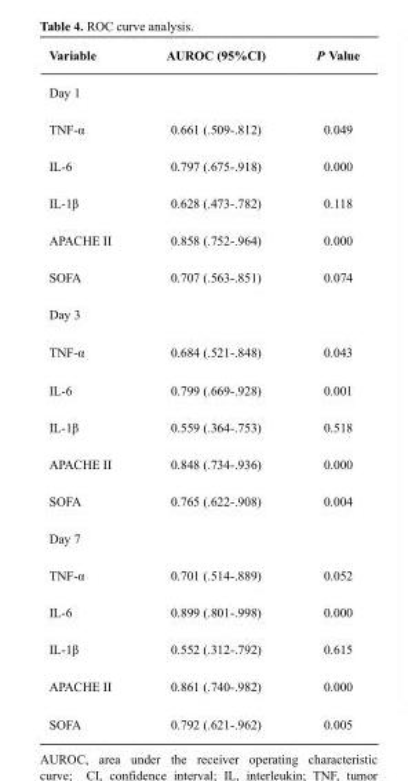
<table><thead><tr><td>Variable</td><td>AUROC (95%CI)</td><td>P Value</td></tr></thead><tbody><tr><td colspan="3">Day 1</td></tr><tr><td>TNF-α</td><td>0.661 (.509-.812)</td><td>0.049</td></tr><tr><td>IL-6</td><td>0.797 (.675-.918)</td><td>0.000</td></tr><tr><td>IL-1β</td><td>0.628 (.473-.782)</td><td>0.118</td></tr><tr><td>APACHE II</td><td>0.858 (.752-.964)</td><td>0.000</td></tr><tr><td>SOFA</td><td>0.707 (.563-.851)</td><td>0.074</td></tr><tr><td colspan="3">Day 3</td></tr><tr><td>TNF-α</td><td>0.684 (.521-.848)</td><td>0.043</td></tr><tr><td>IL-6</td><td>0.799 (.669-.928)</td><td>0.001</td></tr><tr><td>IL-1β</td><td>0.559 (.364-.753)</td><td>0.518</td></tr><tr><td>APACHE II</td><td>0.848 (.734-.936)</td><td>0.000</td></tr><tr><td>SOFA</td><td>0.765 (.622-.908)</td><td>0.004</td></tr><tr><td colspan="3">Day 7</td></tr><tr><td>TNF-α</td><td>0.701 (.514-.889)</td><td>0.052</td></tr><tr><td>IL-6</td><td>0.899 (.801-.998)</td><td>0.000</td></tr><tr><td>IL-1β</td><td>0.552 (.312-.792)</td><td>0.615</td></tr><tr><td>APACHE II</td><td>0.861 (.740-.982)</td><td>0.000</td></tr><tr><td>SOFA</td><td>0.792 (.621-.962)</td><td>0.005</td></tr></tbody></table>